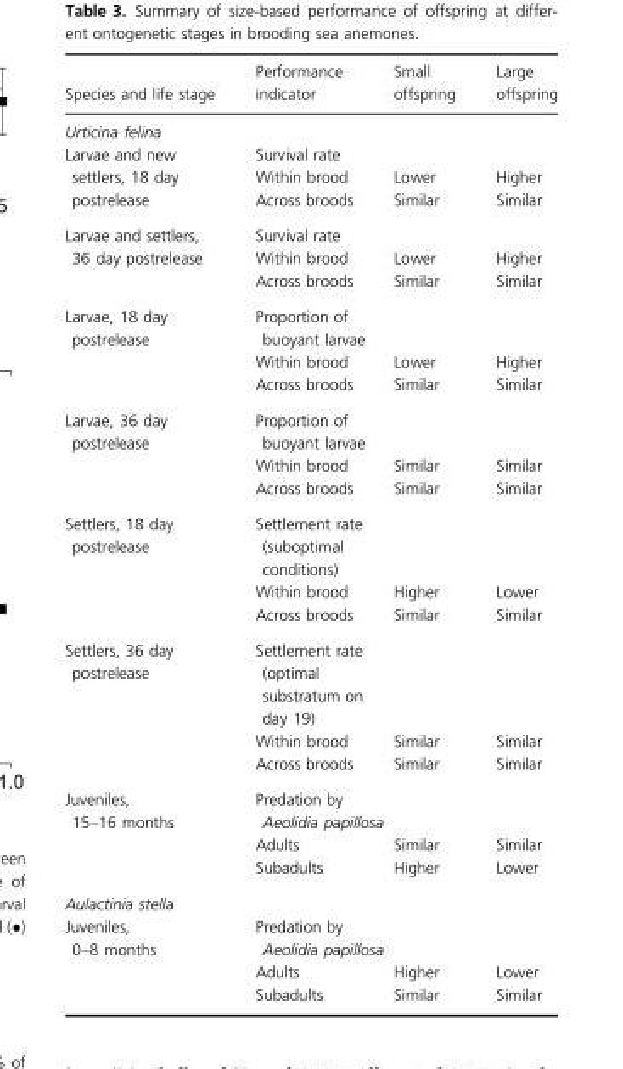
<table><thead><tr><td>Species and life stage</td><td>Performance indicator</td><td>Small offspring</td><td>Large offspring</td></tr></thead><tbody><tr><td colspan="4">Urticina felina</td></tr><tr><td rowspan="3">Larvae and new settlers, 18 day postrelease</td><td colspan="3">Survival rate</td></tr><tr><td>Within brood</td><td>Lower</td><td>Higher</td></tr><tr><td>Across broods</td><td>Similar</td><td>Similar</td></tr><tr><td rowspan="3">Larvae and settlers, 36 day postrelease</td><td colspan="3">Survival rate</td></tr><tr><td>Within brood</td><td>Lower</td><td>Higher</td></tr><tr><td>Across broods</td><td>Similar</td><td>Similar</td></tr><tr><td rowspan="3">Larvae, 18 day postrelease</td><td colspan="3">Proportion of buoyant larvae</td></tr><tr><td>Within brood</td><td>Lower</td><td>Higher</td></tr><tr><td>Across broods</td><td>Similar</td><td>Similar</td></tr><tr><td rowspan="3">Larvae, 36 day postrelease</td><td colspan="3">Proportion of buoyant larvae</td></tr><tr><td>Within brood</td><td>Similar</td><td>Similar</td></tr><tr><td>Across broods</td><td>Similar</td><td>Similar</td></tr><tr><td rowspan="3">Settlers, 18 day postrelease</td><td colspan="3">Settlement rate (suboptimal conditions)</td></tr><tr><td>Within brood</td><td>Higher</td><td>Lower</td></tr><tr><td>Across broods</td><td>Similar</td><td>Similar</td></tr><tr><td rowspan="3">Settlers, 36 day postrelease</td><td colspan="3">Settlement rate (optimal substratum on day 19)</td></tr><tr><td>Within brood</td><td>Similar</td><td>Similar</td></tr><tr><td>Across broods</td><td>Similar</td><td>Similar</td></tr><tr><td rowspan="3">Juveniles, 15–16 months</td><td colspan="3">Predation by Aeolidia papillosa</td></tr><tr><td>Adults</td><td>Similar</td><td>Similar</td></tr><tr><td>Subadults</td><td>Higher</td><td>Lower</td></tr><tr><td colspan="4">Aulactinia stella</td></tr><tr><td rowspan="3">Juveniles, 0–8 months</td><td colspan="3">Predation by Aeolidia papillosa</td></tr><tr><td>Adults</td><td>Higher</td><td>Lower</td></tr><tr><td>Subadults</td><td>Similar</td><td>Similar</td></tr></tbody></table>